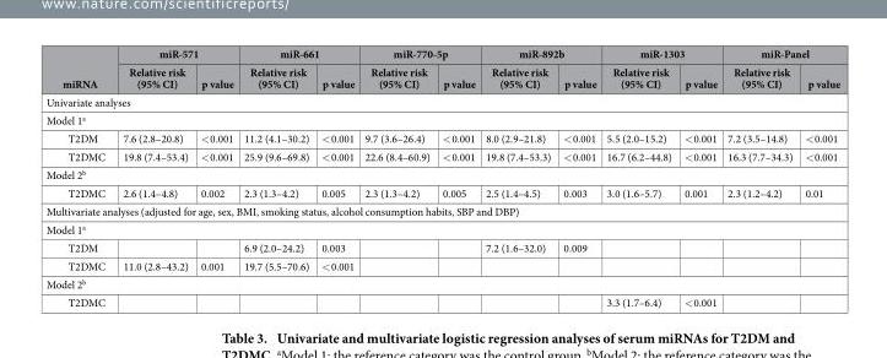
<table><thead><tr><td rowspan="2">miRNA</td><td colspan="2">miR-571</td><td colspan="2">miR-661</td><td colspan="2">miR-770-5p</td><td colspan="2">miR-892b</td><td colspan="2">miR-1303</td><td colspan="2">miR-Panel</td></tr><tr><td>Relative risk (95% CI)</td><td>p value</td><td>Relative risk (95% CI)</td><td>p value</td><td>Relative risk (95% CI)</td><td>p value</td><td>Relative risk (95% CI)</td><td>p value</td><td>Relative risk (95% CI)</td><td>p value</td><td>Relative risk (95% CI)</td><td>p value</td></tr></thead><tbody><tr><td colspan="13">Univariate analyses</td></tr><tr><td colspan="13">Model 1<sup>a</sup></td></tr><tr><td>T2DM</td><td>7.6 (2.8–20.8)</td><td>&lt; 0.001</td><td>11.2 (4.1–30.2)</td><td>&lt; 0.001</td><td>9.7 (3.6–26.4)</td><td>&lt; 0.001</td><td>8.0 (2.9–21.8)</td><td>&lt; 0.001</td><td>5.5 (2.0–15.2)</td><td>&lt; 0.001</td><td>7.2 (3.5–14.8)</td><td>&lt; 0.001</td></tr><tr><td>T2DMC</td><td>19.8 (7.4–53.4)</td><td>&lt; 0.001</td><td>25.9 (9.6–69.8)</td><td>&lt; 0.001</td><td>22.6 (8.4–60.9)</td><td>&lt; 0.001</td><td>19.8 (7.4–53.3)</td><td>&lt; 0.001</td><td>16.7 (6.2–44.8)</td><td>&lt; 0.001</td><td>16.3 (7.7–34.3)</td><td>&lt; 0.001</td></tr><tr><td colspan="13">Model 2<sup>b</sup></td></tr><tr><td>T2DMC</td><td>2.6 (1.4–4.8)</td><td>0.002</td><td>2.3 (1.3–4.2)</td><td>0.005</td><td>2.3 (1.3–4.2)</td><td>0.005</td><td>2.5 (1.4–4.5)</td><td>0.003</td><td>3.0 (1.6–5.7)</td><td>0.001</td><td>2.3 (1.2–4.2)</td><td>0.01</td></tr><tr><td colspan="13">Multivariate analyses (adjusted for age, sex, BMI, smoking status, alcohol consumption habits, SBP and DBP)</td></tr><tr><td colspan="13">Model 1<sup>a</sup></td></tr><tr><td>T2DM</td><td></td><td></td><td>6.9 (2.0–24.2)</td><td>0.003</td><td></td><td></td><td>7.2 (1.6–32.0)</td><td>0.009</td><td></td><td></td><td></td><td></td></tr><tr><td>T2DMC</td><td>11.0 (2.8–43.2)</td><td>0.001</td><td>19.7 (5.5–70.6)</td><td>&lt; 0.001</td><td></td><td></td><td></td><td></td><td></td><td></td><td></td><td></td></tr><tr><td colspan="13">Model 2<sup>b</sup></td></tr><tr><td>T2DMC</td><td></td><td></td><td></td><td></td><td></td><td></td><td></td><td></td><td>3.3 (1.7–6.4)</td><td>&lt; 0.001</td><td></td><td></td></tr></tbody></table>